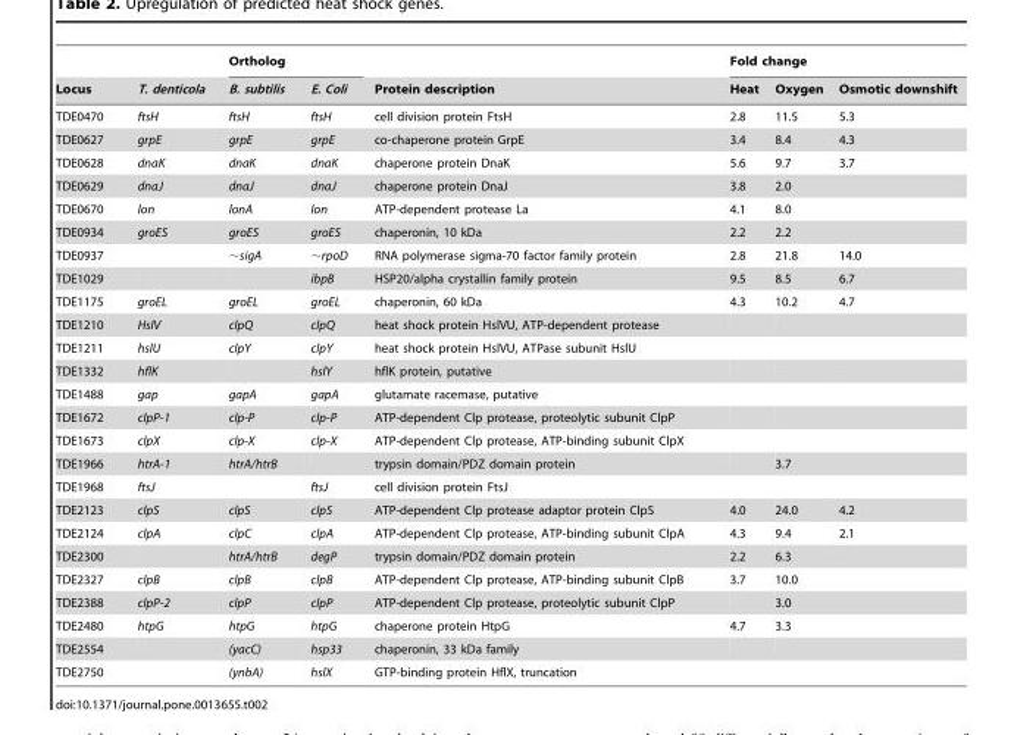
<table><thead><tr><td rowspan="2">Locus</td><td rowspan="2">T. denticola</td><td colspan="2">Ortholog</td><td rowspan="2">Protein description</td><td colspan="3">Fold change</td></tr><tr><td>B. subtilis</td><td>E. Coli</td><td>Heat</td><td>Oxygen</td><td>Osmotic downshift</td></tr></thead><tbody><tr><td>TDE0470</td><td>ftsH</td><td>ftsH</td><td>ftsH</td><td>cell division protein FtsH</td><td>2.8</td><td>11.5</td><td>5.3</td></tr><tr><td>TDE0627</td><td>grpE</td><td>grpE</td><td>grpE</td><td>co-chaperone protein GrpE</td><td>3.4</td><td>8.4</td><td>4.3</td></tr><tr><td>TDE0628</td><td>dnaK</td><td>dnaK</td><td>dnaK</td><td>chaperone protein DnaK</td><td>5.6</td><td>9.7</td><td>3.7</td></tr><tr><td>TDE0629</td><td>dnaJ</td><td>dnaJ</td><td>dnaJ</td><td>chaperone protein DnaJ</td><td>3.8</td><td>2.0</td><td></td></tr><tr><td>TDE0670</td><td>lon</td><td>lonA</td><td>lon</td><td>ATP-dependent protease La</td><td>4.1</td><td>8.0</td><td></td></tr><tr><td>TDE0934</td><td>groES</td><td>groES</td><td>groES</td><td>chaperonin, 10 kDa</td><td>2.2</td><td>2.2</td><td></td></tr><tr><td>TDE0937</td><td></td><td>∼sigA</td><td>∼rpoD</td><td>RNA polymerase sigma-70 factor family protein</td><td>2.8</td><td>21.8</td><td>14.0</td></tr><tr><td>TDE1029</td><td></td><td></td><td>ibpB</td><td>HSP20/alpha crystallin family protein</td><td>9.5</td><td>8.5</td><td>6.7</td></tr><tr><td>TDE1175</td><td>groEL</td><td>groEL</td><td>groEL</td><td>chaperonin, 60 kDa</td><td>4.3</td><td>10.2</td><td>4.7</td></tr><tr><td>TDE1210</td><td>HslV</td><td>clpQ</td><td>clpQ</td><td>heat shock protein HslVU, ATP-dependent protease</td><td></td><td></td><td></td></tr><tr><td>TDE1211</td><td>hslU</td><td>clpY</td><td>clpY</td><td>heat shock protein HslVU, ATPase subunit HslU</td><td></td><td></td><td></td></tr><tr><td>TDE1332</td><td>hflK</td><td></td><td>hslY</td><td>hflK protein, putative</td><td></td><td></td><td></td></tr><tr><td>TDE1488</td><td>gap</td><td>gapA</td><td>gapA</td><td>glutamate racemase, putative</td><td></td><td></td><td></td></tr><tr><td>TDE1672</td><td>clpP-1</td><td>clp-P</td><td>clp-P</td><td>ATP-dependent Clp protease, proteolytic subunit ClpP</td><td></td><td></td><td></td></tr><tr><td>TDE1673</td><td>clpX</td><td>clp-X</td><td>clp-X</td><td>ATP-dependent Clp protease, ATP-binding subunit ClpX</td><td></td><td></td><td></td></tr><tr><td>TDE1966</td><td>htrA-1</td><td>htrA/htrB</td><td></td><td>trypsin domain/PDZ domain protein</td><td></td><td>3.7</td><td></td></tr><tr><td>TDE1968</td><td>ftsJ</td><td></td><td>ftsJ</td><td>cell division protein FtsJ</td><td></td><td></td><td></td></tr><tr><td>TDE2123</td><td>clpS</td><td>clpS</td><td>clpS</td><td>ATP-dependent Clp protease adaptor protein ClpS</td><td>4.0</td><td>24.0</td><td>4.2</td></tr><tr><td>TDE2124</td><td>clpA</td><td>clpC</td><td>clpA</td><td>ATP-dependent Clp protease, ATP-binding subunit ClpA</td><td>4.3</td><td>9.4</td><td>2.1</td></tr><tr><td>TDE2300</td><td></td><td>htrA/htrB</td><td>degP</td><td>trypsin domain/PDZ domain protein</td><td>2.2</td><td>6.3</td><td></td></tr><tr><td>TDE2327</td><td>clpB</td><td>clpB</td><td>clpB</td><td>ATP-dependent Clp protease, ATP-binding subunit ClpB</td><td>3.7</td><td>10.0</td><td></td></tr><tr><td>TDE2388</td><td>clpP-2</td><td>clpP</td><td>clpP</td><td>ATP-dependent Clp protease, proteolytic subunit ClpP</td><td></td><td>3.0</td><td></td></tr><tr><td>TDE2480</td><td>htpG</td><td>htpG</td><td>htpG</td><td>chaperone protein HtpG</td><td>4.7</td><td>3.3</td><td></td></tr><tr><td>TDE2554</td><td></td><td>(yacC)</td><td>hsp33</td><td>chaperonin, 33 kDa family</td><td></td><td></td><td></td></tr><tr><td>TDE2750</td><td></td><td>(ynbA)</td><td>hslX</td><td>GTP-binding protein HflX, truncation</td><td></td><td></td><td></td></tr></tbody></table>